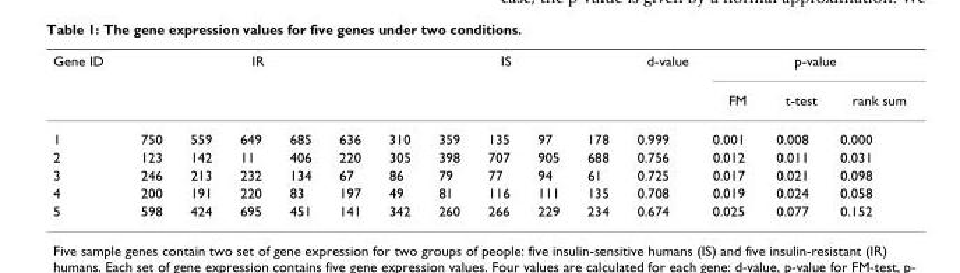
<table><thead><tr><td rowspan="2">Gene ID</td><td colspan="5">IR</td><td colspan="5">IS</td><td rowspan="2">d-value</td><td colspan="3">p-value</td></tr><tr><td></td><td></td><td></td><td></td><td></td><td></td><td></td><td></td><td></td><td></td><td>FM</td><td>t-test</td><td>rank sum</td></tr></thead><tbody><tr><td>1</td><td>750</td><td>559</td><td>649</td><td>685</td><td>636</td><td>310</td><td>359</td><td>135</td><td>97</td><td>178</td><td>0.999</td><td>0.001</td><td>0.008</td><td>0.000</td></tr><tr><td>2</td><td>123</td><td>142</td><td>11</td><td>406</td><td>220</td><td>305</td><td>398</td><td>707</td><td>905</td><td>688</td><td>0.756</td><td>0.012</td><td>0.011</td><td>0.031</td></tr><tr><td>3</td><td>246</td><td>213</td><td>232</td><td>134</td><td>67</td><td>86</td><td>79</td><td>77</td><td>94</td><td>61</td><td>0.725</td><td>0.017</td><td>0.021</td><td>0.098</td></tr><tr><td>4</td><td>200</td><td>191</td><td>220</td><td>83</td><td>197</td><td>49</td><td>81</td><td>116</td><td>111</td><td>135</td><td>0.708</td><td>0.019</td><td>0.024</td><td>0.058</td></tr><tr><td>5</td><td>598</td><td>424</td><td>695</td><td>451</td><td>141</td><td>342</td><td>260</td><td>266</td><td>229</td><td>234</td><td>0.674</td><td>0.025</td><td>0.077</td><td>0.152</td></tr></tbody></table>